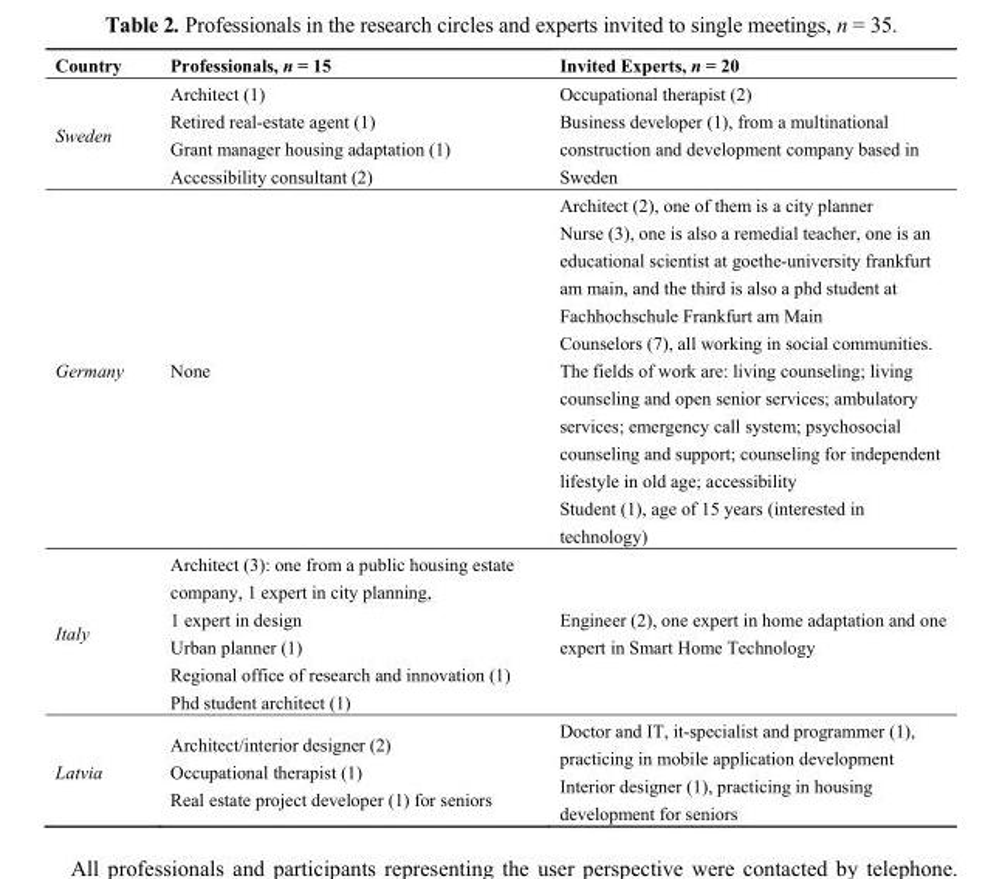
<table><thead><tr><td>Country</td><td>Professionals, n = 15</td><td>Invited Experts, n = 20</td></tr></thead><tbody><tr><td>Sweden</td><td>Architect (1) Retired real-estate agent (1) Grant manager housing adaptation (1) Accessibility consultant (2)</td><td>Occupational therapist (2) Business developer (1), from a multinational construction and development company based in Sweden</td></tr><tr><td>Germany</td><td>None</td><td>Architect (2), one of them is a city planner Nurse (3), one is also a remedial teacher, one is an educational scientist at goethe-university frankfurt am main, and the third is also a phd student at Fachhochschule Frankfurt am Main Counselors (7), all working in social communities. The fields of work are: living counseling; living counseling and open senior services; ambulatory services; emergency call system; psychosocial counseling and support; counseling for independent lifestyle in old age; accessibility Student (1), age of 15 years (interested in technology)</td></tr><tr><td>Italy</td><td>Architect (3): one from a public housing estate company, 1 expert in city planning, 1 expert in design Urban planner (1) Regional office of research and innovation (1) Phd student architect (1)</td><td>Engineer (2), one expert in home adaptation and one expert in Smart Home Technology</td></tr><tr><td>Latvia</td><td>Architect/interior designer (2) Occupational therapist (1) Real estate project developer (1) for seniors</td><td>Doctor and IT, it-specialist and programmer (1), practicing in mobile application development Interior designer (1), practicing in housing development for seniors</td></tr></tbody></table>